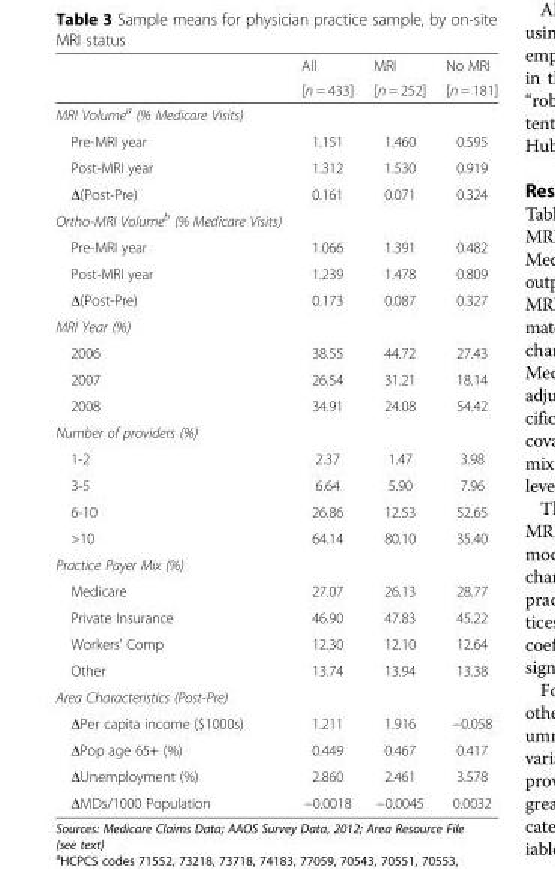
<table><thead><tr><td rowspan="2"></td><td rowspan="2">All [n = 433]</td><td rowspan="2">MRI [n = 252]</td><td rowspan="2">No MRI [n = 181]</td></tr><tr></tr></thead><tbody><tr><td colspan="4">MRI Volume<sup>a</sup> (% Medicare Visits)</td></tr><tr><td>Pre-MRI year</td><td>1.151</td><td>1.460</td><td>0.595</td></tr><tr><td>Post-MRI year</td><td>1.312</td><td>1.530</td><td>0.919</td></tr><tr><td>Δ(Post-Pre)</td><td>0.161</td><td>0.071</td><td>0.324</td></tr><tr><td colspan="4">Ortho-MRI Volume<sup>b</sup> (% Medicare Visits)</td></tr><tr><td>Pre-MRI year</td><td>1.066</td><td>1.391</td><td>0.482</td></tr><tr><td>Post-MRI year</td><td>1.239</td><td>1.478</td><td>0.809</td></tr><tr><td>Δ(Post-Pre)</td><td>0.173</td><td>0.087</td><td>0.327</td></tr><tr><td colspan="4">MRI Year (%)</td></tr><tr><td>2006</td><td>38.55</td><td>44.72</td><td>27.43</td></tr><tr><td>2007</td><td>26.54</td><td>31.21</td><td>18.14</td></tr><tr><td>2008</td><td>34.91</td><td>24.08</td><td>54.42</td></tr><tr><td colspan="4">Number of providers (%)</td></tr><tr><td>1-2</td><td>2.37</td><td>1.47</td><td>3.98</td></tr><tr><td>3-5</td><td>6.64</td><td>5.90</td><td>7.96</td></tr><tr><td>6-10</td><td>26.86</td><td>12.53</td><td>52.65</td></tr><tr><td>&gt;10</td><td>64.14</td><td>80.10</td><td>35.40</td></tr><tr><td colspan="4">Practice Payer Mix (%)</td></tr><tr><td>Medicare</td><td>27.07</td><td>26.13</td><td>28.77</td></tr><tr><td>Private Insurance</td><td>46.90</td><td>47.83</td><td>45.22</td></tr><tr><td>Workers’ Comp</td><td>12.30</td><td>12.10</td><td>12.64</td></tr><tr><td>Other</td><td>13.74</td><td>13.94</td><td>13.38</td></tr><tr><td colspan="4">Area Characteristics (Post-Pre)</td></tr><tr><td>ΔPer capita income ($1000s)</td><td>1.211</td><td>1.916</td><td>−0.058</td></tr><tr><td>ΔPop age 65+ (%)</td><td>0.449</td><td>0.467</td><td>0.417</td></tr><tr><td>ΔUnemployment (%)</td><td>2.860</td><td>2.461</td><td>3.578</td></tr><tr><td>ΔMDs/1000 Population</td><td>−0.0018</td><td>−0.0045</td><td>0.0032</td></tr></tbody></table>